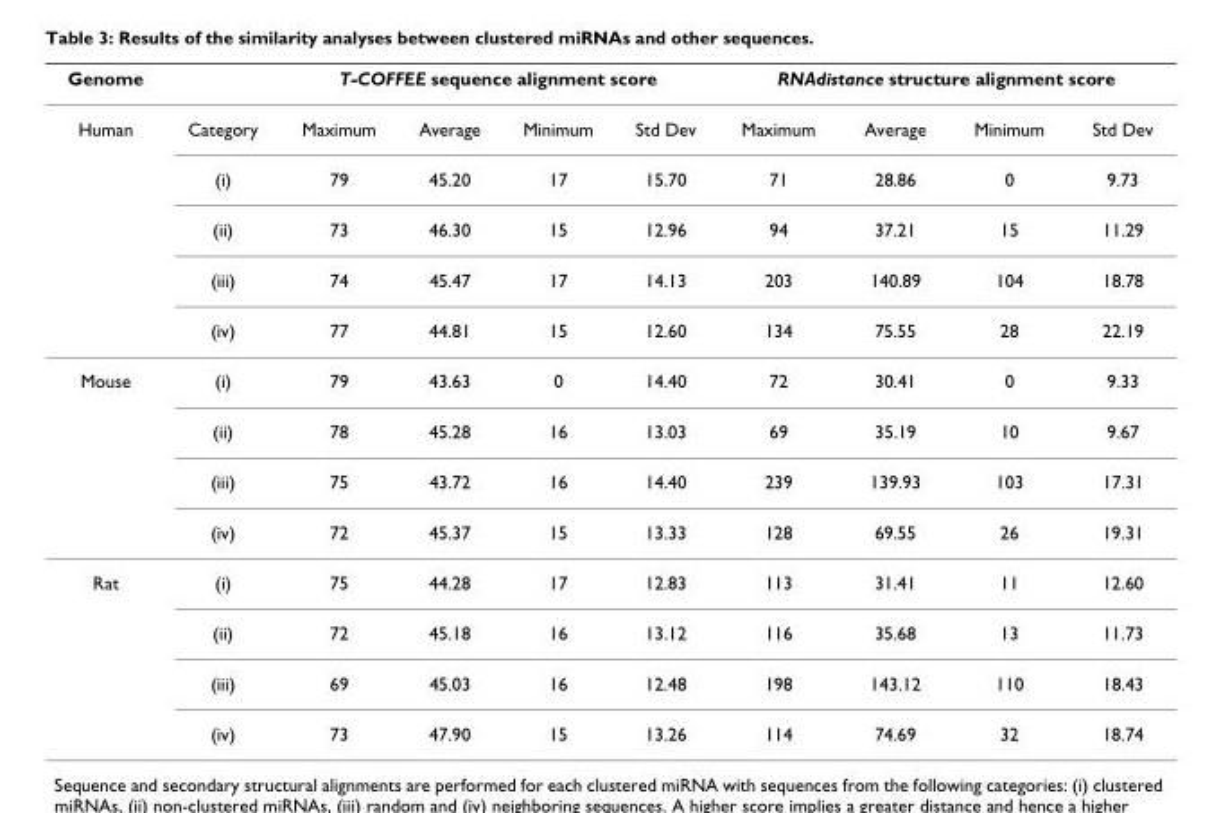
<table><thead><tr><td rowspan="2">Genome Human</td><td rowspan="2">Category</td><td colspan="4">T-COFFEE sequence alignment score</td><td colspan="4">RNAdistance structure alignment score</td></tr><tr><td>Maximum</td><td>Average</td><td>Minimum</td><td>Std Dev</td><td>Maximum</td><td>Average</td><td>Minimum</td><td>Std Dev</td></tr></thead><tbody><tr><td></td><td>(i)</td><td>79</td><td>45.20</td><td>17</td><td>15.70</td><td>71</td><td>28.86</td><td>0</td><td>9.73</td></tr><tr><td></td><td>(ii)</td><td>73</td><td>46.30</td><td>15</td><td>12.96</td><td>94</td><td>37.21</td><td>15</td><td>11.29</td></tr><tr><td></td><td>(iii)</td><td>74</td><td>45.47</td><td>17</td><td>14.13</td><td>203</td><td>140.89</td><td>104</td><td>18.78</td></tr><tr><td></td><td>(iv)</td><td>77</td><td>44.81</td><td>15</td><td>12.60</td><td>134</td><td>75.55</td><td>28</td><td>22.19</td></tr><tr><td rowspan="4">Mouse</td><td>(i)</td><td>79</td><td>43.63</td><td>0</td><td>14.40</td><td>72</td><td>30.41</td><td>0</td><td>9.33</td></tr><tr><td>(ii)</td><td>78</td><td>45.28</td><td>16</td><td>13.03</td><td>69</td><td>35.19</td><td>10</td><td>9.67</td></tr><tr><td>(iii)</td><td>75</td><td>43.72</td><td>16</td><td>14.40</td><td>239</td><td>139.93</td><td>103</td><td>17.31</td></tr><tr><td>(iv)</td><td>72</td><td>45.37</td><td>15</td><td>13.33</td><td>128</td><td>69.55</td><td>26</td><td>19.31</td></tr><tr><td rowspan="4">Rat</td><td>(i)</td><td>75</td><td>44.28</td><td>17</td><td>12.83</td><td>113</td><td>31.41</td><td>11</td><td>12.60</td></tr><tr><td>(ii)</td><td>72</td><td>45.18</td><td>16</td><td>13.12</td><td>116</td><td>35.68</td><td>13</td><td>11.73</td></tr><tr><td>(iii)</td><td>69</td><td>45.03</td><td>16</td><td>12.48</td><td>198</td><td>143.12</td><td>110</td><td>18.43</td></tr><tr><td>(iv)</td><td>73</td><td>47.90</td><td>15</td><td>13.26</td><td>114</td><td>74.69</td><td>32</td><td>18.74</td></tr></tbody></table>